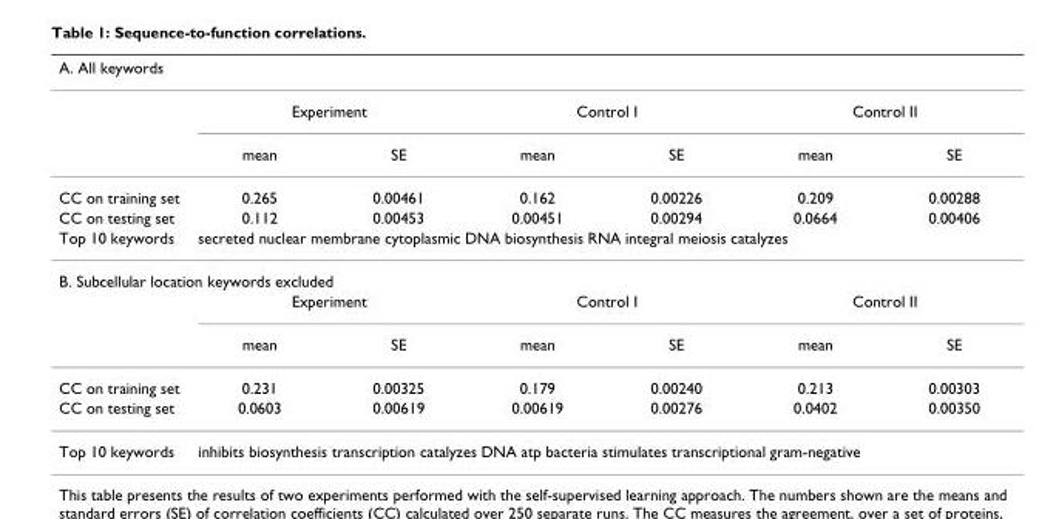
<table><thead><tr><td colspan="7">A. All keywords</td></tr><tr><td rowspan="2"></td><td colspan="2">Experiment</td><td colspan="2">Control I</td><td colspan="2">Control II</td></tr><tr><td>mean</td><td>SE</td><td>mean</td><td>SE</td><td>mean</td><td>SE</td></tr></thead><tbody><tr><td>CC on training set</td><td>0.265</td><td>0.00461</td><td>0.162</td><td>0.00226</td><td>0.209</td><td>0.00288</td></tr><tr><td>CC on testing set</td><td>0.112</td><td>0.00453</td><td>0.00451</td><td>0.00294</td><td>0.0664</td><td>0.00406</td></tr><tr><td>Top 10 keywords</td><td colspan="6">secreted nuclear membrane cytoplasmic DNA biosynthesis RNA integral meiosis catalyzes</td></tr><tr><td colspan="7">B. Subcellular location keywords excluded</td></tr><tr><td></td><td colspan="2">Experiment</td><td colspan="2">Control I</td><td colspan="2">Control II</td></tr><tr><td></td><td>mean</td><td>SE</td><td>mean</td><td>SE</td><td>mean</td><td>SE</td></tr><tr><td>CC on training set</td><td>0.231</td><td>0.00325</td><td>0.179</td><td>0.00240</td><td>0.213</td><td>0.00303</td></tr><tr><td>CC on testing set</td><td>0.0603</td><td>0.00619</td><td>0.00619</td><td>0.00276</td><td>0.0402</td><td>0.00350</td></tr><tr><td>Top 10 keywords</td><td colspan="6">inhibits biosynthesis transcription catalyzes DNA atp bacteria stimulates transcriptional gram-negative</td></tr></tbody></table>